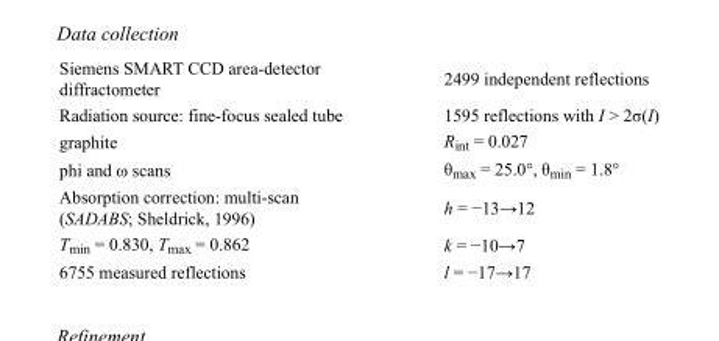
<table><tbody><tr><td>Siemens SMART CCD area-detector diffractometer</td><td>2499 independent reflections</td></tr><tr><td>Radiation source: fine-focus sealed tube</td><td>1595 reflections with I &gt; 2σ(I)</td></tr><tr><td>graphite</td><td>R<sub>int</sub> = 0.027</td></tr><tr><td>phi and ω scans</td><td>θ<sub>max</sub> = 25.0°, θ<sub>min</sub> = 1.8°</td></tr><tr><td>Absorption correction: multi-scan (SADABS; Sheldrick, 1996)</td><td>h = −13→12</td></tr><tr><td>T<sub>min</sub> = 0.830, T<sub>max</sub> = 0.862</td><td>k = −10→7</td></tr><tr><td>6755 measured reflections</td><td>l = −17→17</td></tr></tbody></table>